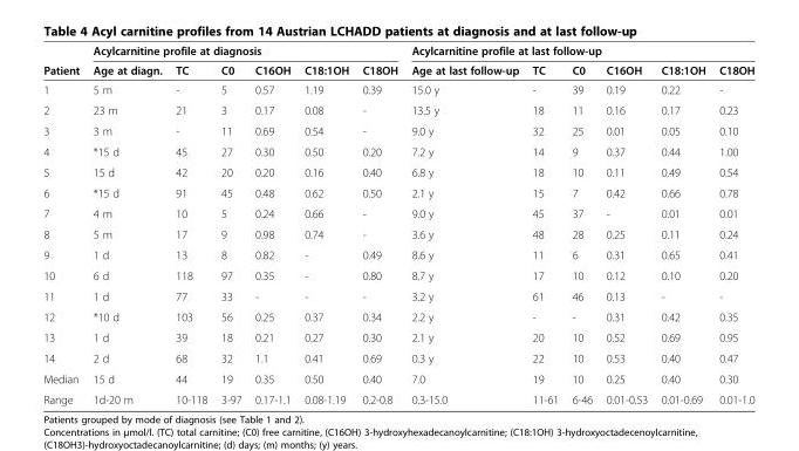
<table><thead><tr><td rowspan="2">Patient</td><td colspan="6">Acylcarnitine profile at diagnosis</td><td colspan="6">Acylcarnitine profile at last follow-up</td></tr><tr><td>Age at diagn.</td><td>TC</td><td>C0</td><td>C16OH</td><td>C18:1OH</td><td>C18OH</td><td>Age at last follow-up</td><td>TC</td><td>C0</td><td>C16OH</td><td>C18:1OH</td><td>C18OH</td></tr></thead><tbody><tr><td>1</td><td>5 m</td><td>-</td><td>5</td><td>0.57</td><td>1.19</td><td>0.39</td><td>15.0 y</td><td>-</td><td>39</td><td>0.19</td><td>0.22</td><td>-</td></tr><tr><td>2</td><td>23 m</td><td>21</td><td>3</td><td>0.17</td><td>0.08</td><td>-</td><td>13.5 y</td><td>18</td><td>11</td><td>0.16</td><td>0.17</td><td>0.23</td></tr><tr><td>3</td><td>3 m</td><td>-</td><td>11</td><td>0.69</td><td>0.54</td><td>-</td><td>9.0 y</td><td>32</td><td>25</td><td>0.01</td><td>0.05</td><td>0.10</td></tr><tr><td>4</td><td>*15 d</td><td>45</td><td>27</td><td>0.30</td><td>0.50</td><td>0.20</td><td>7.2 y</td><td>14</td><td>9</td><td>0.37</td><td>0.44</td><td>1.00</td></tr><tr><td>5</td><td>15 d</td><td>42</td><td>20</td><td>0.20</td><td>0.16</td><td>0.40</td><td>6.8 y</td><td>18</td><td>10</td><td>0.11</td><td>0.49</td><td>0.54</td></tr><tr><td>6</td><td>*15 d</td><td>91</td><td>45</td><td>0.48</td><td>0.62</td><td>0.50</td><td>2.1 y</td><td>15</td><td>7</td><td>0.42</td><td>0.66</td><td>0.78</td></tr><tr><td>7</td><td>4 m</td><td>10</td><td>5</td><td>0.24</td><td>0.66</td><td>-</td><td>9.0 y</td><td>45</td><td>37</td><td>-</td><td>0.01</td><td>0.01</td></tr><tr><td>8</td><td>5 m</td><td>17</td><td>9</td><td>0.98</td><td>0.74</td><td>-</td><td>3.6 y</td><td>48</td><td>28</td><td>0.25</td><td>0.11</td><td>0.24</td></tr><tr><td>9</td><td>1 d</td><td>13</td><td>8</td><td>0.82</td><td>-</td><td>0.49</td><td>8.6 y</td><td>11</td><td>6</td><td>0.31</td><td>0.65</td><td>0.41</td></tr><tr><td>10</td><td>6 d</td><td>118</td><td>97</td><td>0.35</td><td>-</td><td>0.80</td><td>8.7 y</td><td>17</td><td>10</td><td>0.12</td><td>0.10</td><td>0.20</td></tr><tr><td>11</td><td>1 d</td><td>77</td><td>33</td><td>-</td><td>-</td><td>-</td><td>3.2 y</td><td>61</td><td>46</td><td>0.13</td><td>-</td><td>-</td></tr><tr><td>12</td><td>*10 d</td><td>103</td><td>56</td><td>0.25</td><td>0.37</td><td>0.34</td><td>2.2 y</td><td>-</td><td>-</td><td>0.31</td><td>0.42</td><td>0.35</td></tr><tr><td>13</td><td>1 d</td><td>39</td><td>18</td><td>0.21</td><td>0.27</td><td>0.30</td><td>2.1 y</td><td>20</td><td>10</td><td>0.52</td><td>0.69</td><td>0.95</td></tr><tr><td>14</td><td>2 d</td><td>68</td><td>32</td><td>1.1</td><td>0.41</td><td>0.69</td><td>0.3 y</td><td>22</td><td>10</td><td>0.53</td><td>0.40</td><td>0.47</td></tr><tr><td>Median</td><td>15 d</td><td>44</td><td>19</td><td>0.35</td><td>0.50</td><td>0.40</td><td>7.0</td><td>19</td><td>10</td><td>0.25</td><td>0.40</td><td>0.30</td></tr><tr><td>Range</td><td>1d-20 m</td><td>10-118</td><td>3-97</td><td>0.17-1.1</td><td>0.08-1.19</td><td>0.2-0.8</td><td>0.3-15.0</td><td>11-61</td><td>6-46</td><td>0.01-0.53</td><td>0.01-0.69</td><td>0.01-1.0</td></tr></tbody></table>